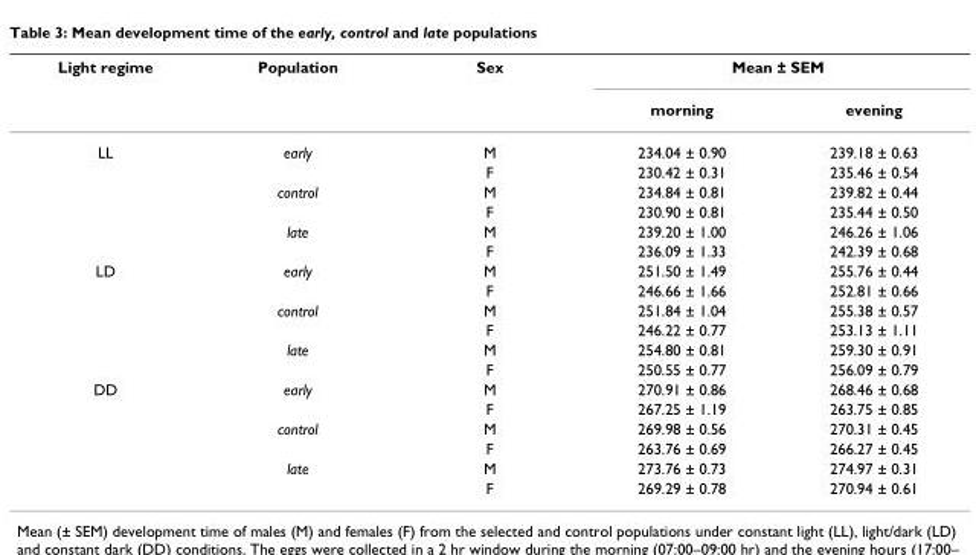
<table><thead><tr><td rowspan="2">Light regime</td><td rowspan="2">Population</td><td rowspan="2">Sex</td><td colspan="2">Mean ± SEM</td></tr><tr><td>morning</td><td>evening</td></tr></thead><tbody><tr><td rowspan="6">LL</td><td>early</td><td>M</td><td>234.04 ± 0.90</td><td>239.18 ± 0.63</td></tr><tr><td></td><td>F</td><td>230.42 ± 0.31</td><td>235.46 ± 0.54</td></tr><tr><td>control</td><td>M</td><td>234.84 ± 0.81</td><td>239.82 ± 0.44</td></tr><tr><td></td><td>F</td><td>230.90 ± 0.81</td><td>235.44 ± 0.50</td></tr><tr><td>late</td><td>M</td><td>239.20 ± 1.00</td><td>246.26 ± 1.06</td></tr><tr><td></td><td>F</td><td>236.09 ± 1.33</td><td>242.39 ± 0.68</td></tr><tr><td rowspan="6">LD</td><td>early</td><td>M</td><td>251.50 ± 1.49</td><td>255.76 ± 0.44</td></tr><tr><td></td><td>F</td><td>246.66 ± 1.66</td><td>252.81 ± 0.66</td></tr><tr><td>control</td><td>M</td><td>251.84 ± 1.04</td><td>255.38 ± 0.57</td></tr><tr><td></td><td>F</td><td>246.22 ± 0.77</td><td>253.13 ± 1.11</td></tr><tr><td>late</td><td>M</td><td>254.80 ± 0.81</td><td>259.30 ± 0.91</td></tr><tr><td></td><td>F</td><td>250.55 ± 0.77</td><td>256.09 ± 0.79</td></tr><tr><td rowspan="6">DD</td><td>early</td><td>M</td><td>270.91 ± 0.86</td><td>268.46 ± 0.68</td></tr><tr><td></td><td>F</td><td>267.25 ± 1.19</td><td>263.75 ± 0.85</td></tr><tr><td>control</td><td>M</td><td>269.98 ± 0.56</td><td>270.31 ± 0.45</td></tr><tr><td></td><td>F</td><td>263.76 ± 0.69</td><td>266.27 ± 0.45</td></tr><tr><td>late</td><td>M</td><td>273.76 ± 0.73</td><td>274.97 ± 0.31</td></tr><tr><td></td><td>F</td><td>269.29 ± 0.78</td><td>270.94 ± 0.61</td></tr></tbody></table>